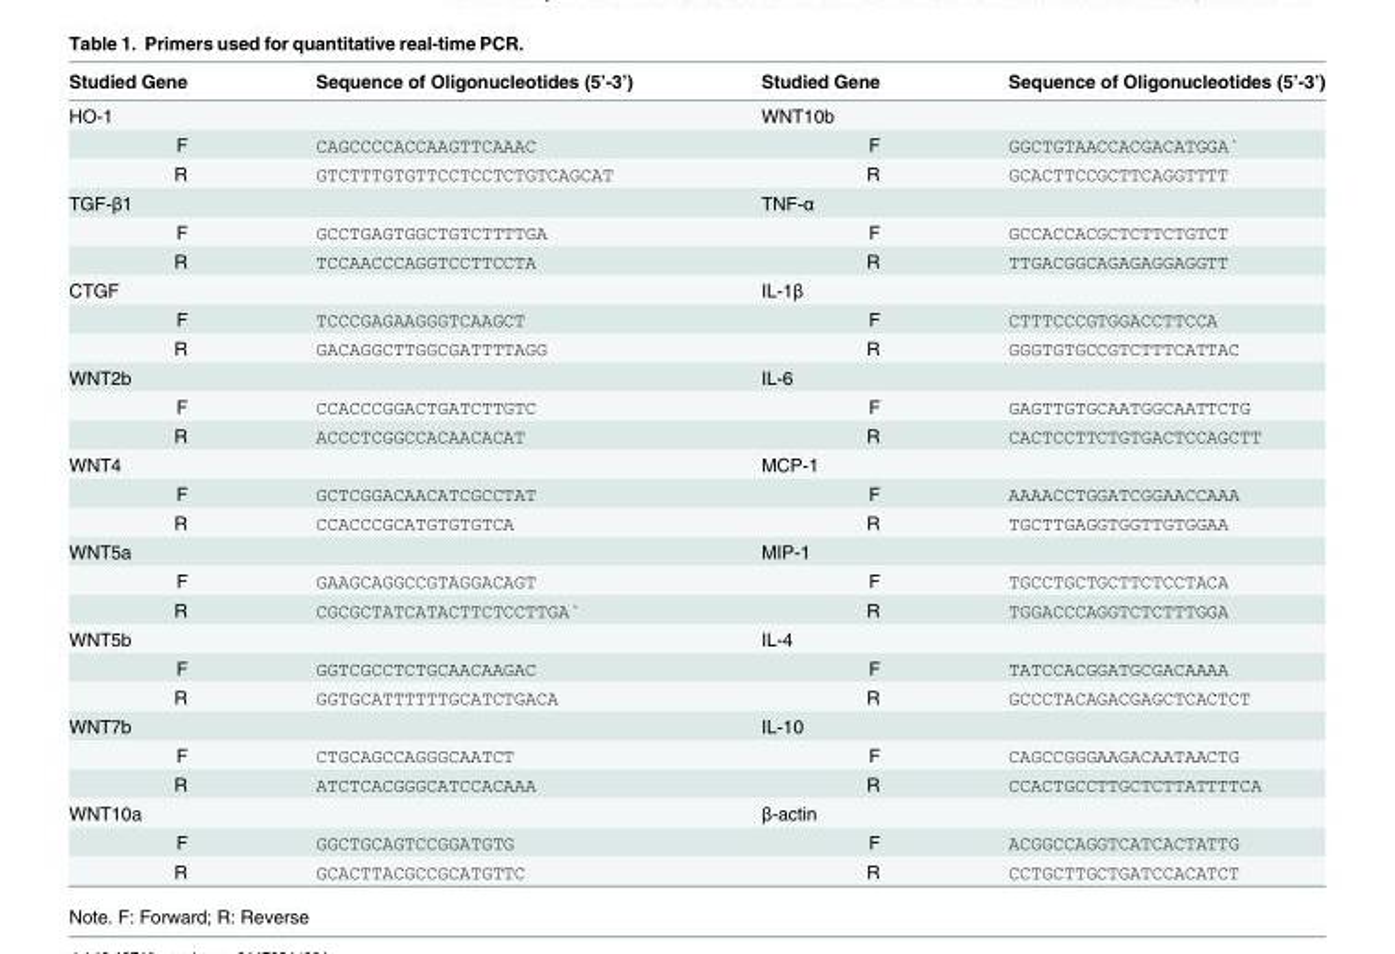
<table><thead><tr><td>Studied Gene</td><td>Sequence of Oligonucleotides (5’-3’)</td><td>Studied Gene</td><td>Sequence of Oligonucleotides (5’-3’)</td></tr></thead><tbody><tr><td>HO-1</td><td></td><td>WNT10b</td><td></td></tr><tr><td>F</td><td>CAGCCCCACCAAGTTCAAAC</td><td>F</td><td>GGCTGTAACCACGACATGGA`</td></tr><tr><td>R</td><td>GTCTTTGTGTTCCTCCTCTGTCAGCAT</td><td>R</td><td>GCACTTCCGCTTCAGGTTTT</td></tr><tr><td>TGF-β1</td><td></td><td>TNF-α</td><td></td></tr><tr><td>F</td><td>GCCTGAGTGGCTGTCTTTTGA</td><td>F</td><td>GCCACCACGCTCTTCTGTCT</td></tr><tr><td>R</td><td>TCCAACCCAGGTCCTTCCTA</td><td>R</td><td>TTGACGGCAGAGAGGAGGTT</td></tr><tr><td>CTGF</td><td></td><td>IL-1β</td><td></td></tr><tr><td>F</td><td>TCCCGAGAAGGGTCAAGCT</td><td>F</td><td>CTTTCCCGTGGACCTTCCA</td></tr><tr><td>R</td><td>GACAGGCTTGGCGATTTTAGG</td><td>R</td><td>GGGTGTGCCGTCTTTCATTAC</td></tr><tr><td>WNT2b</td><td></td><td>IL-6</td><td></td></tr><tr><td>F</td><td>CCACCCGGACTGATCTTGTC</td><td>F</td><td>GAGTTGTGCAATGGCAATTCTG</td></tr><tr><td>R</td><td>ACCCTCGGCCACAACACAT</td><td>R</td><td>CACTCCTTCTGTGACTCCAGCTT</td></tr><tr><td>WNT4</td><td></td><td>MCP-1</td><td></td></tr><tr><td>F</td><td>GCTCGGACAACATCGCCTAT</td><td>F</td><td>AAAACCTGGATCGGAACCAAA</td></tr><tr><td>R</td><td>CCACCCGCATGTGTGTCA</td><td>R</td><td>TGCTTGAGGTGGTTGTGGAA</td></tr><tr><td>WNT5a</td><td></td><td>MIP-1</td><td></td></tr><tr><td>F</td><td>GAAGCAGGCCGTAGGACAGT</td><td>F</td><td>TGCCTGCTGCTTCTCCTACA</td></tr><tr><td>R</td><td>CGCGCTATCATACTTCTCCTTGA`</td><td>R</td><td>TGGACCCAGGTCTCTTTGGA</td></tr><tr><td>WNT5b</td><td></td><td>IL-4</td><td></td></tr><tr><td>F</td><td>GGTCGCCTCTGCAACAAGAC</td><td>F</td><td>TATCCACGGATGCGACAAAA</td></tr><tr><td>R</td><td>GGTGCATTTTTTGCATCTGACA</td><td>R</td><td>GCCCTACAGACGAGCTCACTCT</td></tr><tr><td>WNT7b</td><td></td><td>IL-10</td><td></td></tr><tr><td>F</td><td>CTGCAGCCAGGGCAATCT</td><td>F</td><td>CAGCCGGGAAGACAATAACTG</td></tr><tr><td>R</td><td>ATCTCACGGGCATCCACAAA</td><td>R</td><td>CCACTGCCTTGCTCTTATTTTCA</td></tr><tr><td>WNT10a</td><td></td><td>β-actin</td><td></td></tr><tr><td>F</td><td>GGCTGCAGTCCGGATGTG</td><td>F</td><td>ACGGCCAGGTCATCACTATTG</td></tr><tr><td>R</td><td>GCACTTACGCCGCATGTTC</td><td>R</td><td>CCTGCTTGCTGATCCACATCT</td></tr></tbody></table>